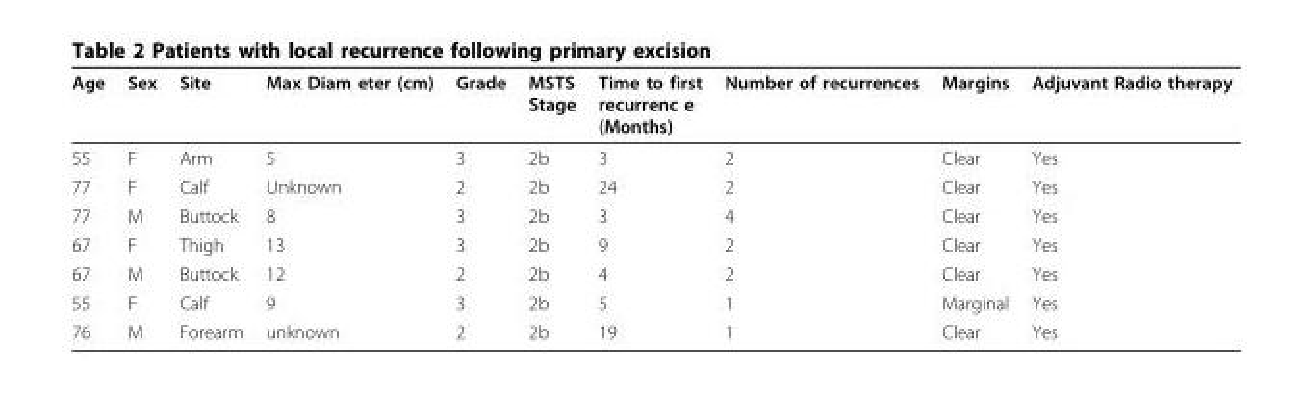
<table><thead><tr><td>Age</td><td>Sex</td><td>Site</td><td>Max Diam eter (cm)</td><td>Grade</td><td>MSTS Stage</td><td>Time to first recurrenc e (Months)</td><td>Number of recurrences</td><td>Margins</td><td>Adjuvant Radio therapy</td></tr></thead><tbody><tr><td>55</td><td>F</td><td>Arm</td><td>5</td><td>3</td><td>2b</td><td>3</td><td>2</td><td>Clear</td><td>Yes</td></tr><tr><td>77</td><td>F</td><td>Calf</td><td>Unknown</td><td>2</td><td>2b</td><td>24</td><td>2</td><td>Clear</td><td>Yes</td></tr><tr><td>77</td><td>M</td><td>Buttock</td><td>8</td><td>3</td><td>2b</td><td>3</td><td>4</td><td>Clear</td><td>Yes</td></tr><tr><td>67</td><td>F</td><td>Thigh</td><td>13</td><td>3</td><td>2b</td><td>9</td><td>2</td><td>Clear</td><td>Yes</td></tr><tr><td>67</td><td>M</td><td>Buttock</td><td>12</td><td>2</td><td>2b</td><td>4</td><td>2</td><td>Clear</td><td>Yes</td></tr><tr><td>55</td><td>F</td><td>Calf</td><td>9</td><td>3</td><td>2b</td><td>5</td><td>1</td><td>Marginal</td><td>Yes</td></tr><tr><td>76</td><td>M</td><td>Forearm</td><td>unknown</td><td>2</td><td>2b</td><td>19</td><td>1</td><td>Clear</td><td>Yes</td></tr></tbody></table>